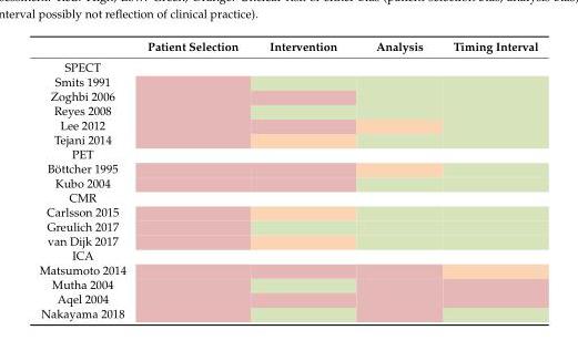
<table><thead><tr><td></td><td>Patient Selection</td><td>Intervention</td><td>Analysis</td><td>Timing Interval</td></tr></thead><tbody><tr><td colspan="5">SPECT</td></tr><tr><td colspan="5">Smits 1991</td></tr><tr><td colspan="5">Zoghbi 2006</td></tr><tr><td colspan="5">Reyes 2008</td></tr><tr><td colspan="5">Lee 2012</td></tr><tr><td colspan="5">Tejani 2014</td></tr><tr><td colspan="5">PET</td></tr><tr><td colspan="5">Böttcher 1995</td></tr><tr><td colspan="5">Kubo 2004</td></tr><tr><td colspan="5">CMR</td></tr><tr><td colspan="5">Carlsson 2015</td></tr><tr><td colspan="5">Greulich 2017</td></tr><tr><td colspan="5">van Dijk 2017</td></tr><tr><td colspan="5">ICA</td></tr><tr><td colspan="5">Matsumoto 2014</td></tr><tr><td colspan="5">Mutha 2004</td></tr><tr><td colspan="5">Aqel 2004</td></tr><tr><td>Nakayama 2018</td><td></td><td></td><td></td><td></td></tr></tbody></table>